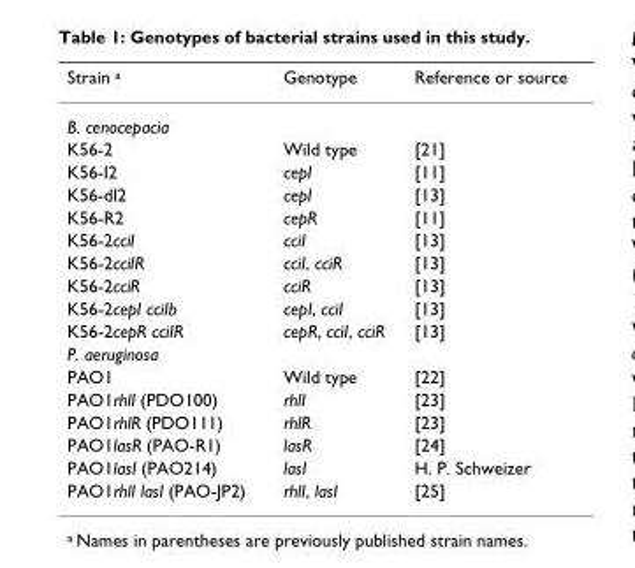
<table><thead><tr><td>Strain <sup>a</sup></td><td>Genotype</td><td>Reference or source</td></tr></thead><tbody><tr><td colspan="3">B. cenocepacia</td></tr><tr><td>K56-2</td><td>Wild type</td><td>[21]</td></tr><tr><td>K56-I2</td><td>cepI</td><td>[11]</td></tr><tr><td>K56-dI2</td><td>cepI</td><td>[13]</td></tr><tr><td>K56-R2</td><td>cepR</td><td>[11]</td></tr><tr><td>K56-2cciI</td><td>cciI</td><td>[13]</td></tr><tr><td>K56-2cciIR</td><td>cciI, cciR</td><td>[13]</td></tr><tr><td>K56-2cciR</td><td>cciR</td><td>[13]</td></tr><tr><td>K56-2cepI cciIb</td><td>cepI, cciI</td><td>[13]</td></tr><tr><td>K56-2cepR cciIR</td><td>cepR, cciI, cciR</td><td>[13]</td></tr><tr><td colspan="3">P. aeruginosa</td></tr><tr><td>PAO1</td><td>Wild type</td><td>[22]</td></tr><tr><td>PAO1rhlI (PDO100)</td><td>rhlI</td><td>[23]</td></tr><tr><td>PAO1rhlR (PDO111)</td><td>rhlR</td><td>[23]</td></tr><tr><td>PAO1lasR (PAO-R1)</td><td>lasR</td><td>[24]</td></tr><tr><td>PAO1lasI (PAO214)</td><td>lasI</td><td>H. P. Schweizer</td></tr><tr><td>PAO1rhlI lasI (PAO-JP2)</td><td>rhlI, lasI</td><td>[25]</td></tr></tbody></table>